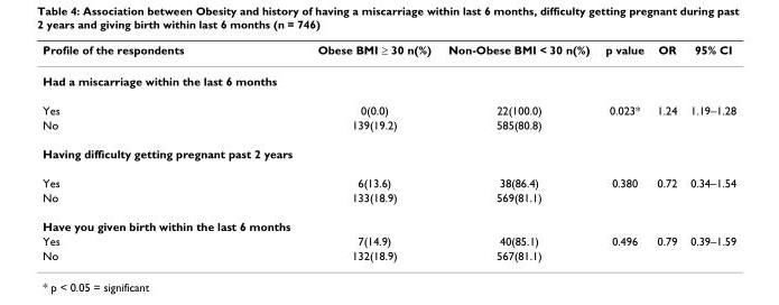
<table><thead><tr><td>Profile of the respondents</td><td>Obese BMI ≥ 30 n(%)</td><td>Non-Obese BMI &lt; 30 n(%)</td><td>p value</td><td>OR</td><td>95% CI</td></tr></thead><tbody><tr><td colspan="6">Had a miscarriage within the last 6 months</td></tr><tr><td>Yes</td><td>0(0.0)</td><td>22(100.0)</td><td>0.023*</td><td>1.24</td><td>1.19–1.28</td></tr><tr><td>No</td><td>139(19.2)</td><td>585(80.8)</td><td></td><td></td><td></td></tr><tr><td colspan="6">Having difficulty getting pregnant past 2 years</td></tr><tr><td>Yes</td><td>6(13.6)</td><td>38(86.4)</td><td>0.380</td><td>0.72</td><td>0.34–1.54</td></tr><tr><td>No</td><td>133(18.9)</td><td>569(81.1)</td><td></td><td></td><td></td></tr><tr><td colspan="6">Have you given birth within the last 6 months</td></tr><tr><td>Yes</td><td>7(14.9)</td><td>40(85.1)</td><td>0.496</td><td>0.79</td><td>0.39–1.59</td></tr><tr><td>No</td><td>132(18.9)</td><td>567(81.1)</td><td></td><td></td><td></td></tr></tbody></table>